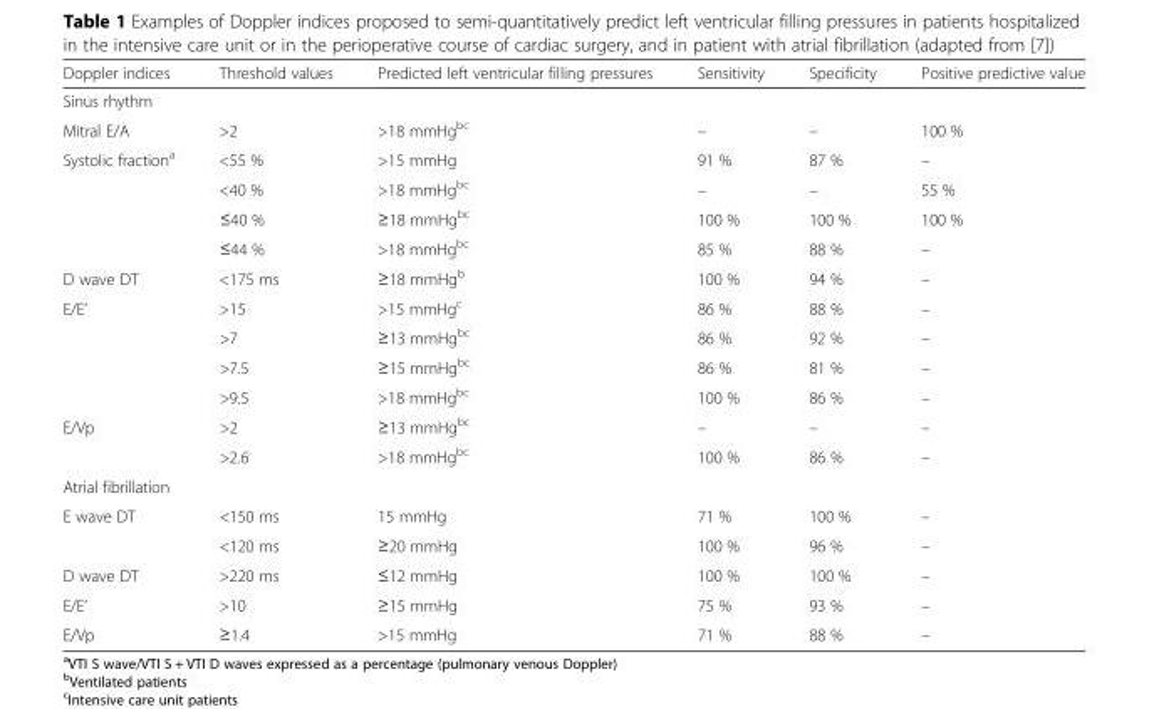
<table><thead><tr><td>Doppler indices</td><td>Threshold values</td><td>Predicted left ventricular filling pressures</td><td>Sensitivity</td><td>Specificity</td><td>Positive predictive value</td></tr></thead><tbody><tr><td colspan="6">Sinus rhythm</td></tr><tr><td>Mitral E/A</td><td>&gt;2</td><td>&gt;18 mmHg<sup>bc</sup></td><td>–</td><td>–</td><td>100 %</td></tr><tr><td rowspan="4">Systolic fraction<sup>a</sup></td><td>&lt;55 %</td><td>&gt;15 mmHg</td><td>91 %</td><td>87 %</td><td>–</td></tr><tr><td>&lt;40 %</td><td>&gt;18 mmHg<sup>bc</sup></td><td>–</td><td>–</td><td>55 %</td></tr><tr><td>≤40 %</td><td>≥18 mmHg<sup>bc</sup></td><td>100 %</td><td>100 %</td><td>100 %</td></tr><tr><td>≤44 %</td><td>&gt;18 mmHg<sup>bc</sup></td><td>85 %</td><td>88 %</td><td>–</td></tr><tr><td>D wave DT</td><td>&lt;175 ms</td><td>≥18 mmHg<sup>b</sup></td><td>100 %</td><td>94 %</td><td>–</td></tr><tr><td rowspan="4">E/E’</td><td>&gt;15</td><td>&gt;15 mmHg<sup>c</sup></td><td>86 %</td><td>88 %</td><td>–</td></tr><tr><td>&gt;7</td><td>≥13 mmHg<sup>bc</sup></td><td>86 %</td><td>92 %</td><td>–</td></tr><tr><td>&gt;7.5</td><td>≥15 mmHg<sup>bc</sup></td><td>86 %</td><td>81 %</td><td>–</td></tr><tr><td>&gt;9.5</td><td>&gt;18 mmHg<sup>bc</sup></td><td>100 %</td><td>86 %</td><td>–</td></tr><tr><td rowspan="2">E/Vp</td><td>&gt;2</td><td>≥13 mmHg<sup>bc</sup></td><td>–</td><td>–</td><td>–</td></tr><tr><td>&gt;2.6</td><td>&gt;18 mmHg<sup>bc</sup></td><td>100 %</td><td>86 %</td><td>–</td></tr><tr><td colspan="6">Atrial fibrillation</td></tr><tr><td rowspan="2">E wave DT</td><td>&lt;150 ms</td><td>15 mmHg</td><td>71 %</td><td>100 %</td><td>–</td></tr><tr><td>&lt;120 ms</td><td>≥20 mmHg</td><td>100 %</td><td>96 %</td><td>–</td></tr><tr><td>D wave DT</td><td>&gt;220 ms</td><td>≤12 mmHg</td><td>100 %</td><td>100 %</td><td>–</td></tr><tr><td>E/E’</td><td>&gt;10</td><td>≥15 mmHg</td><td>75 %</td><td>93 %</td><td>–</td></tr><tr><td>E/Vp</td><td>≥1.4</td><td>&gt;15 mmHg</td><td>71 %</td><td>88 %</td><td>–</td></tr></tbody></table>